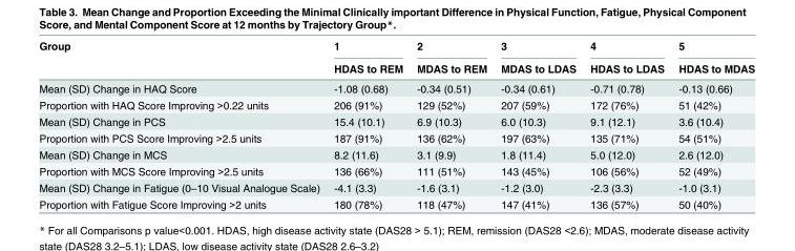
<table><thead><tr><td rowspan="2">Group</td><td rowspan="2">1 HDAS to REM</td><td rowspan="2">2 MDAS to REM</td><td rowspan="2">3 MDAS to LDAS</td><td rowspan="2">4 HDAS to LDAS</td><td rowspan="2">5 HDAS to MDAS</td></tr><tr></tr></thead><tbody><tr><td>Mean (SD) Change in HAQ Score</td><td>-1.08 (0.68)</td><td>-0.34 (0.51)</td><td>-0.34 (0.61)</td><td>-0.71 (0.78)</td><td>-0.13 (0.66)</td></tr><tr><td>Proportion with HAQ Score Improving &gt;0.22 units</td><td>206 (91%)</td><td>129 (52%)</td><td>207 (59%)</td><td>172 (76%)</td><td>51 (42%)</td></tr><tr><td>Mean (SD) Change in PCS</td><td>15.4 (10.1)</td><td>6.9 (10.3)</td><td>6.0 (10.3)</td><td>9.1 (12.1)</td><td>3.6 (10.4)</td></tr><tr><td>Proportion with PCS Score Improving &gt;2.5 units</td><td>187 (91%)</td><td>136 (62%)</td><td>197 (63%)</td><td>135 (71%)</td><td>54 (51%)</td></tr><tr><td>Mean (SD) Change in MCS</td><td>8.2 (11.6)</td><td>3.1 (9.9)</td><td>1.8 (11.4)</td><td>5.0 (12.0)</td><td>2.6 (12.0)</td></tr><tr><td>Proportion with MCS Score Improving &gt;2.5 units</td><td>136 (66%)</td><td>111 (51%)</td><td>143 (45%)</td><td>106 (56%)</td><td>52 (49%)</td></tr><tr><td>Mean (SD) Change in Fatigue (0–10 Visual Analogue Scale)</td><td>-4.1 (3.3)</td><td>-1.6 (3.1)</td><td>-1.2 (3.0)</td><td>-2.3 (3.3)</td><td>-1.0 (3.1)</td></tr><tr><td>Proportion with Fatigue Score Improving &gt;2 units</td><td>180 (78%)</td><td>118 (47%)</td><td>147 (41%)</td><td>136 (57%)</td><td>50 (40%)</td></tr></tbody></table>